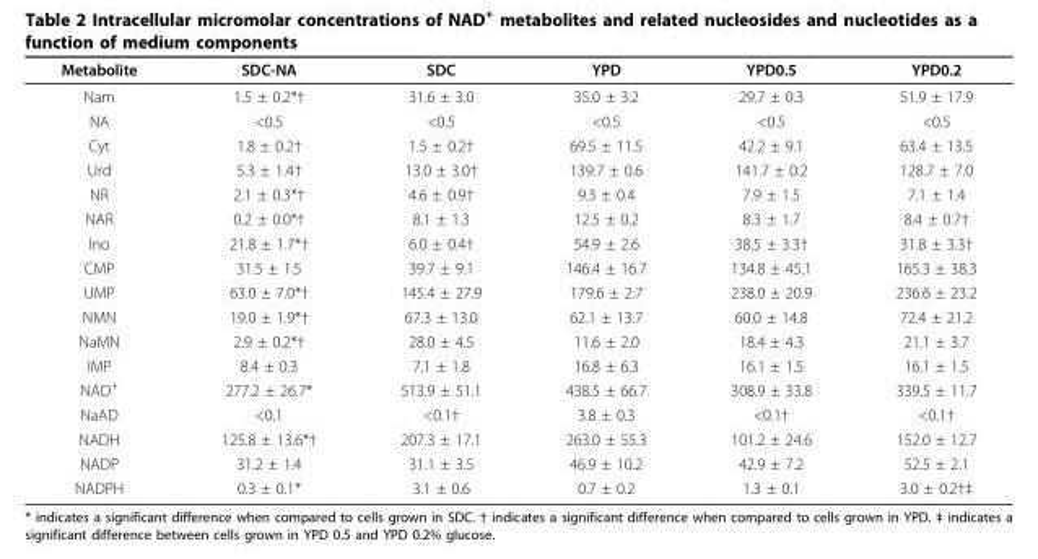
<table><thead><tr><td>Metabolite</td><td>SDC-NA</td><td>SDC</td><td>YPD</td><td>YPD0.5</td><td>YPD0.2</td></tr></thead><tbody><tr><td>Nam</td><td>1.5 ± 0.2*†</td><td>31.6 ± 3.0</td><td>35.0 ± 3.2</td><td>29.7 ± 0.3</td><td>51.9 ± 17.9</td></tr><tr><td>NA</td><td>&lt;0.5</td><td>&lt;0.5</td><td>&lt;0.5</td><td>&lt;0.5</td><td>&lt;0.5</td></tr><tr><td>Cyt</td><td>1.8 ± 0.2†</td><td>1.5 ± 0.2†</td><td>69.5 ± 11.5</td><td>42.2 ± 9.1</td><td>63.4 ± 13.5</td></tr><tr><td>Urd</td><td>5.3 ± 1.4†</td><td>13.0 ± 3.0†</td><td>139.7 ± 0.6</td><td>141.7 ± 0.2</td><td>128.7 ± 7.0</td></tr><tr><td>NR</td><td>2.1 ± 0.3*†</td><td>4.6 ± 0.9†</td><td>9.3 ± 0.4</td><td>7.9 ± 1.5</td><td>7.1 ± 1.4</td></tr><tr><td>NAR</td><td>0.2 ± 0.0*†</td><td>8.1 ± 1.3</td><td>12.5 ± 0.2</td><td>8.3 ± 1.7</td><td>8.4 ± 0.7†</td></tr><tr><td>Ino</td><td>21.8 ± 1.7*†</td><td>6.0 ± 0.4†</td><td>54.9 ± 2.6</td><td>38.5 ± 3.3†</td><td>31.8 ± 3.3†</td></tr><tr><td>CMP</td><td>31.5 ± 1.5</td><td>39.7 ± 9.1</td><td>146.4 ± 16.7</td><td>134.8 ± 45.1</td><td>165.3 ± 38.3</td></tr><tr><td>UMP</td><td>63.0 ± 7.0*†</td><td>145.4 ± 27.9</td><td>179.6 ± 2.7</td><td>238.0 ± 20.9</td><td>236.6 ± 23.2</td></tr><tr><td>NMN</td><td>19.0 ± 1.9*†</td><td>67.3 ± 13.0</td><td>62.1 ± 13.7</td><td>60.0 ± 14.8</td><td>72.4 ± 21.2</td></tr><tr><td>NaMN</td><td>2.9 ± 0.2*†</td><td>28.0 ± 4.5</td><td>11.6 ± 2.0</td><td>18.4 ± 4.3</td><td>21.1 ± 3.7</td></tr><tr><td>IMP</td><td>8.4 ± 0.3</td><td>7.1 ± 1.8</td><td>16.8 ± 6.3</td><td>16.1 ± 1.5</td><td>16.1 ± 1.5</td></tr><tr><td>NAD<sup>+</sup></td><td>277.2 ± 26.7*</td><td>513.9 ± 51.1</td><td>438.5 ± 66.7</td><td>308.9 ± 33.8</td><td>339.5 ± 11.7</td></tr><tr><td>NaAD</td><td>&lt;0.1</td><td>&lt;0.1†</td><td>3.8 ± 0.3</td><td>&lt;0.1†</td><td>&lt;0.1†</td></tr><tr><td>NADH</td><td>125.8 ± 13.6*†</td><td>207.3 ± 17.1</td><td>263.0 ± 55.3</td><td>101.2 ± 24.6</td><td>152.0 ± 12.7</td></tr><tr><td>NADP</td><td>31.2 ± 1.4</td><td>31.1 ± 3.5</td><td>46.9 ± 10.2</td><td>42.9 ± 7.2</td><td>52.5 ± 2.1</td></tr><tr><td>NADPH</td><td>0.3 ± 0.1*</td><td>3.1 ± 0.6</td><td>0.7 ± 0.2</td><td>1.3 ± 0.1</td><td>3.0 ± 0.2†‡</td></tr></tbody></table>